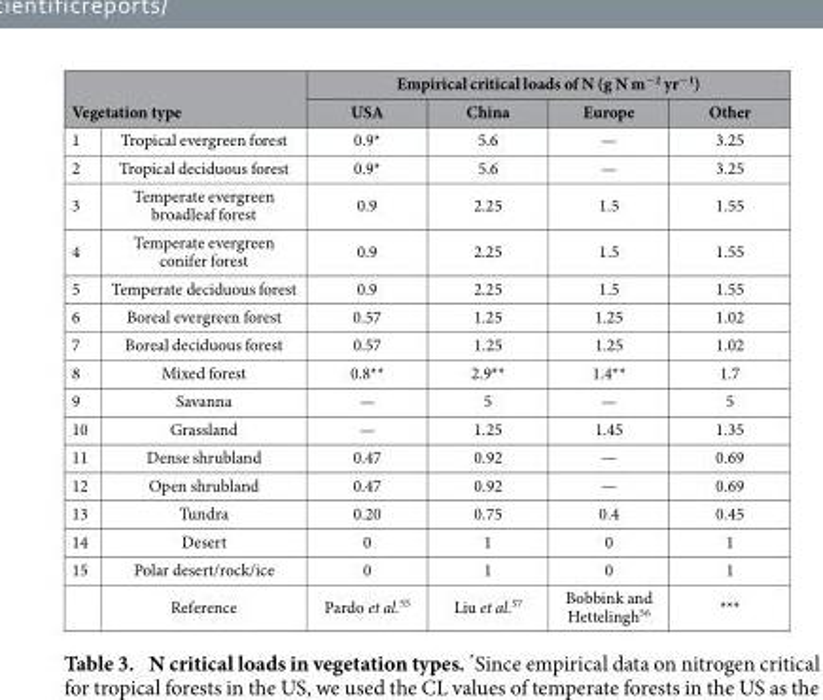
<table><thead><tr><td></td><td></td><td colspan="4">Empirical critical loads of N (g N m<sup>−2</sup> yr<sup>−1</sup>)</td></tr><tr><td colspan="2">Vegetation type</td><td>USA</td><td>China</td><td>Europe</td><td>Other</td></tr></thead><tbody><tr><td>1</td><td>Tropical evergreen forest</td><td>0.9*</td><td>5.6</td><td>—</td><td>3.25</td></tr><tr><td>2</td><td>Tropical deciduous forest</td><td>0.9*</td><td>5.6</td><td>—</td><td>3.25</td></tr><tr><td>3</td><td>Temperate evergreen broadleaf forest</td><td>0.9</td><td>2.25</td><td>1.5</td><td>1.55</td></tr><tr><td>4</td><td>Temperate evergreen conifer forest</td><td>0.9</td><td>2.25</td><td>1.5</td><td>1.55</td></tr><tr><td>5</td><td>Temperate deciduous forest</td><td>0.9</td><td>2.25</td><td>1.5</td><td>1.55</td></tr><tr><td>6</td><td>Boreal evergreen forest</td><td>0.57</td><td>1.25</td><td>1.25</td><td>1.02</td></tr><tr><td>7</td><td>Boreal deciduous forest</td><td>0.57</td><td>1.25</td><td>1.25</td><td>1.02</td></tr><tr><td>8</td><td>Mixed forest</td><td>0.8**</td><td>2.9**</td><td>1.4**</td><td>1.7</td></tr><tr><td>9</td><td>Savanna</td><td>—</td><td>5</td><td>—</td><td>5</td></tr><tr><td>10</td><td>Grassland</td><td>—</td><td>1.25</td><td>1.45</td><td>1.35</td></tr><tr><td>11</td><td>Dense shrubland</td><td>0.47</td><td>0.92</td><td>—</td><td>0.69</td></tr><tr><td>12</td><td>Open shrubland</td><td>0.47</td><td>0.92</td><td>—</td><td>0.69</td></tr><tr><td>13</td><td>Tundra</td><td>0.20</td><td>0.75</td><td>0.4</td><td>0.45</td></tr><tr><td>14</td><td>Desert</td><td>0</td><td>1</td><td>0</td><td>1</td></tr><tr><td rowspan="2">15</td><td>Polar desert/rock/ice</td><td>0</td><td>1</td><td>0</td><td>1</td></tr><tr><td>Reference</td><td>Pardo et al.<sup>55</sup></td><td>Liu et al.<sup>57</sup></td><td>Bobbink and Hettelingh<sup>56</sup></td><td>***</td></tr></tbody></table>